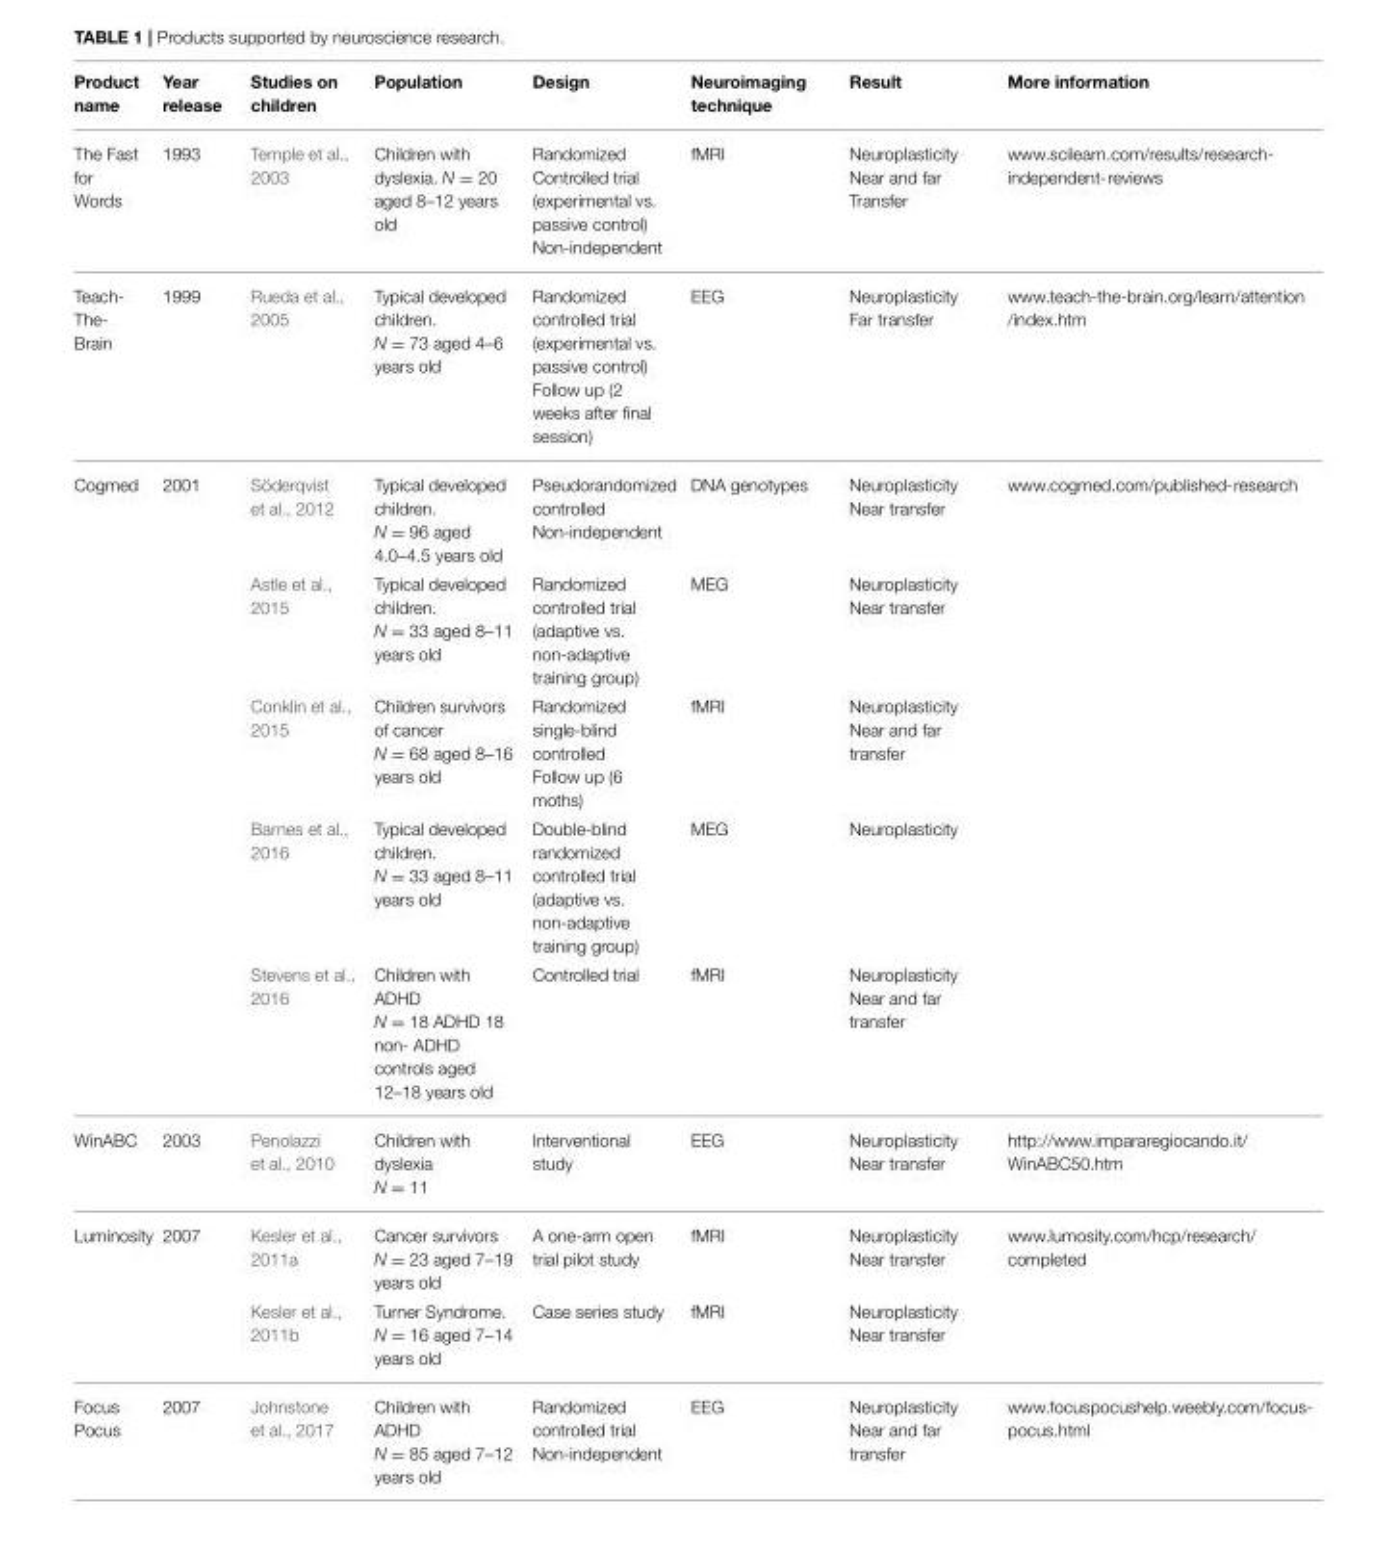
<table><thead><tr><td>Product name</td><td>Year release</td><td>Studies on children</td><td>Population</td><td>Design</td><td>Neuroimaging technique</td><td>Result</td><td>More information</td></tr></thead><tbody><tr><td>The Fast for Words</td><td>1993</td><td>Temple et al., 2003</td><td>Children with dyslexia. N = 20 aged 8–12 years old</td><td>Randomized Controlled trial (experimental vs. passive control) Non-independent</td><td>fMRI</td><td>Neuroplasticity Near and far Transfer</td><td>www.scilearn.com/results/research- independent-reviews</td></tr><tr><td>Teach- The- Brain</td><td>1999</td><td>Rueda et al., 2005</td><td>Typical developed children. N = 73 aged 4–6 years old</td><td>Randomized controlled trial (experimental vs. passive control) Follow up (2 weeks after final session)</td><td>EEG</td><td>Neuroplasticity Far transfer</td><td>www.teach-the-brain.org/learn/attention /index.htm</td></tr><tr><td rowspan="5">Cogmed</td><td>2001</td><td>Söderqvist et al., 2012</td><td>Typical developed children. N = 96 aged 4.0–4.5 years old</td><td>Pseudorandomized controlled Non-independent</td><td>DNA genotypes</td><td>Neuroplasticity Near transfer</td><td>www.cogmed.com/published-research</td></tr><tr><td></td><td>Astle et al., 2015</td><td>Typical developed children. N = 33 aged 8–11 years old</td><td>Randomized controlled trial (adaptive vs. non-adaptive training group)</td><td>MEG</td><td>Neuroplasticity Near transfer</td><td></td></tr><tr><td></td><td>Conklin et al., 2015</td><td>Children survivors of cancer N = 68 aged 8–16 years old</td><td>Randomized single-blind controlled Follow up (6 moths)</td><td>fMRI</td><td>Neuroplasticity Near and far transfer</td><td></td></tr><tr><td></td><td>Barnes et al., 2016</td><td>Typical developed children. N = 33 aged 8–11 years old</td><td>Double-blind randomized controlled trial (adaptive vs. non-adaptive training group)</td><td>MEG</td><td>Neuroplasticity</td><td></td></tr><tr><td></td><td>Stevens et al., 2016</td><td>Children with ADHD N = 18 ADHD 18 non- ADHD controls aged 12–18 years old</td><td>Controlled trial</td><td>fMRI</td><td>Neuroplasticity Near and far transfer</td><td></td></tr><tr><td>WinABC</td><td>2003</td><td>Penolazzi et al., 2010</td><td>Children with dyslexia N = 11</td><td>Interventional study</td><td>EEG</td><td>Neuroplasticity Near transfer</td><td>http://www.impararegiocando.it/ WinABC50.htm</td></tr><tr><td rowspan="2">Luminosity</td><td>2007</td><td>Kesler et al., 2011a</td><td>Cancer survivors N = 23 aged 7–19 years old</td><td>A one-arm open trial pilot study</td><td>fMRI</td><td>Neuroplasticity Near transfer</td><td>www.lumosity.com/hcp/research/ completed</td></tr><tr><td></td><td>Kesler et al., 2011b</td><td>Turner Syndrome. N = 16 aged 7–14 years old</td><td>Case series study</td><td>fMRI</td><td>Neuroplasticity Near transfer</td><td></td></tr><tr><td>Focus Pocus</td><td>2007</td><td>Johnstone et al., 2017</td><td>Children with ADHD N = 85 aged 7–12 years old</td><td>Randomized controlled trial Non-independent</td><td>EEG</td><td>Neuroplasticity Near and far transfer</td><td>www.focuspocushelp.weebly.com/focus- pocus.html</td></tr></tbody></table>